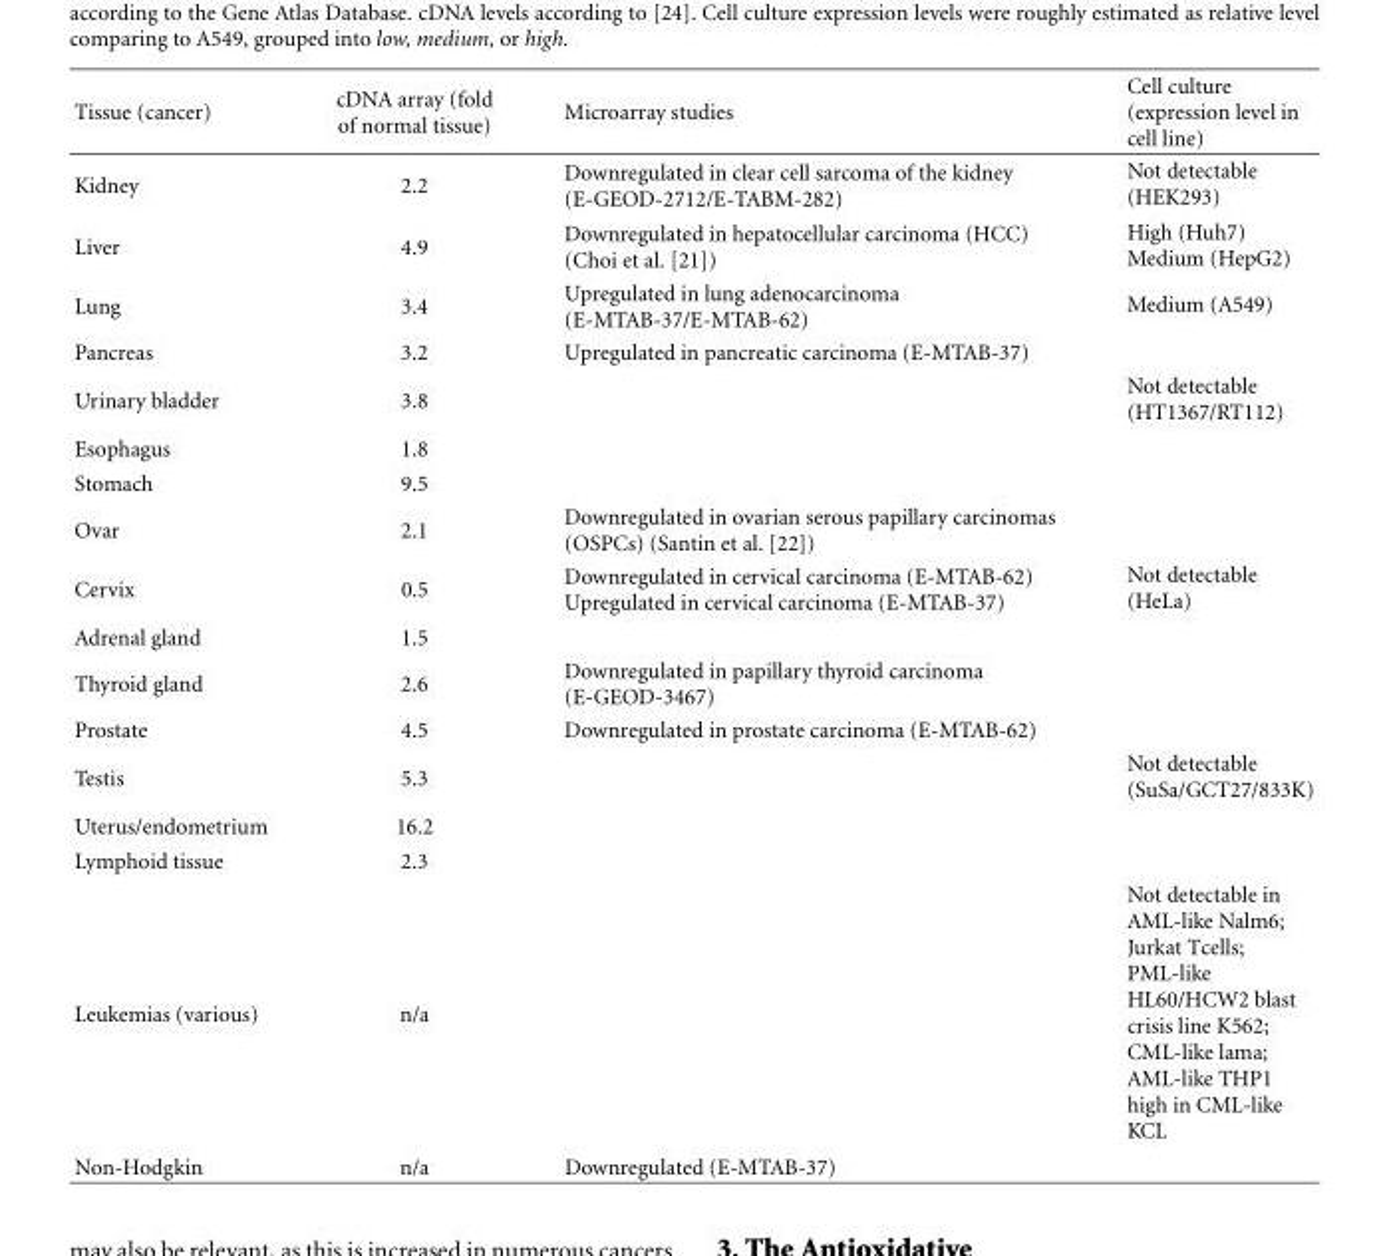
<table><thead><tr><td>Tissue (cancer)</td><td>cDNA array (fold of normal tissue)</td><td>Microarray studies</td><td>Cell culture (expression level in cell line)</td></tr></thead><tbody><tr><td>Kidney</td><td>2.2</td><td>Downregulated in clear cell sarcoma of the kidney (E-GEOD-2712/E-TABM-282)</td><td>Not detectable (HEK293)</td></tr><tr><td>Liver</td><td>4.9</td><td>Downregulated in hepatocellular carcinoma (HCC) (Choi et al. [21])</td><td>High (Huh7) Medium (HepG2)</td></tr><tr><td>Lung</td><td>3.4</td><td>Upregulated in lung adenocarcinoma (E-MTAB-37/E-MTAB-62)</td><td>Medium (A549)</td></tr><tr><td>Pancreas</td><td>3.2</td><td>Upregulated in pancreatic carcinoma (E-MTAB-37)</td><td></td></tr><tr><td>Urinary bladder</td><td>3.8</td><td></td><td>Not detectable (HT1367/RT112)</td></tr><tr><td>Esophagus</td><td>1.8</td><td></td><td></td></tr><tr><td>Stomach</td><td>9.5</td><td></td><td></td></tr><tr><td>Ovar</td><td>2.1</td><td>Downregulated in ovarian serous papillary carcinomas (OSPCs) (Santin et al. [22])</td><td></td></tr><tr><td>Cervix</td><td>0.5</td><td>Downregulated in cervical carcinoma (E-MTAB-62) Upregulated in cervical carcinoma (E-MTAB-37)</td><td>Not detectable (HeLa)</td></tr><tr><td>Adrenal gland</td><td>1.5</td><td></td><td></td></tr><tr><td>Thyroid gland</td><td>2.6</td><td>Downregulated in papillary thyroid carcinoma (E-GEOD-3467)</td><td></td></tr><tr><td>Prostate</td><td>4.5</td><td>Downregulated in prostate carcinoma (E-MTAB-62)</td><td></td></tr><tr><td>Testis</td><td>5.3</td><td></td><td>Not detectable (SuSa/GCT27/833K)</td></tr><tr><td>Uterus/endometrium</td><td>16.2</td><td></td><td></td></tr><tr><td>Lymphoid tissue</td><td>2.3</td><td></td><td></td></tr><tr><td>Leukemias (various)</td><td>n/a</td><td></td><td>Not detectable in AML-like Nalm6; Jurkat Tcells; PML-like HL60/HCW2 blast crisis line K562; CML-like lama; AML-like THP1 high in CML-like KCL</td></tr><tr><td>Non-Hodgkin</td><td>n/a</td><td>Downregulated (E-MTAB-37)</td><td></td></tr></tbody></table>